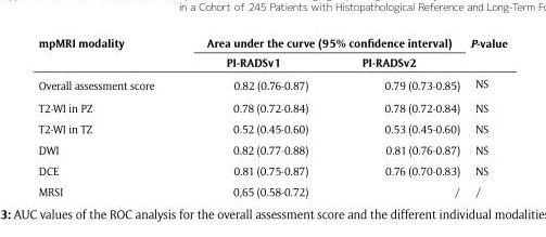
<table><thead><tr><td rowspan="2">mpMRI modality</td><td colspan="2">Area under the curve (95% confidence interval)</td><td rowspan="2">P-value</td></tr><tr><td>PI-RADSv1</td><td>PI-RADSv2</td></tr></thead><tbody><tr><td>Overall assessment score</td><td>0.82 (0.76-0.87)</td><td>0.79 (0.73-0.85)</td><td>NS</td></tr><tr><td>T2-WI in PZ</td><td>0.78 (0.72-0.84)</td><td>0.78 (0.72-0.84)</td><td>NS</td></tr><tr><td>T2-WI in TZ</td><td>0.52 (0.45-0.60)</td><td>0.53 (0.45-0.60)</td><td>NS</td></tr><tr><td>DWI</td><td>0.82 (0.77-0.88)</td><td>0.81 (0.76-0.87)</td><td>NS</td></tr><tr><td>DCE</td><td>0.81 (0.75-0.87)</td><td>0.76 (0.70-0.83)</td><td>NS</td></tr><tr><td>MRSI</td><td>0,65 (0.58-0.72)</td><td>/</td><td>/</td></tr></tbody></table>